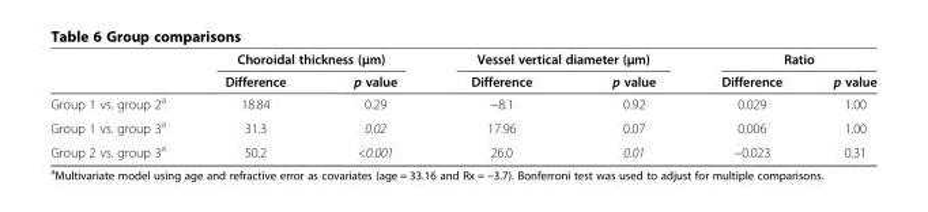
<table><thead><tr><td rowspan="2"></td><td colspan="2">Choroidal thickness (μm)</td><td colspan="2">Vessel vertical diameter (μm)</td><td colspan="2">Ratio</td></tr><tr><td>Difference</td><td>p value</td><td>Difference</td><td>p value</td><td>Difference</td><td>p value</td></tr></thead><tbody><tr><td>Group 1 vs. group 2<sup>a</sup></td><td>18.84</td><td>0.29</td><td>−8.1</td><td>0.92</td><td>0.029</td><td>1.00</td></tr><tr><td>Group 1 vs. group 3<sup>a</sup></td><td>31.3</td><td>0.02</td><td>17.96</td><td>0.07</td><td>0.006</td><td>1.00</td></tr><tr><td>Group 2 vs. group 3<sup>a</sup></td><td>50.2</td><td>&lt;0.001</td><td>26.0</td><td>0.01</td><td>−0.023</td><td>0.31</td></tr></tbody></table>